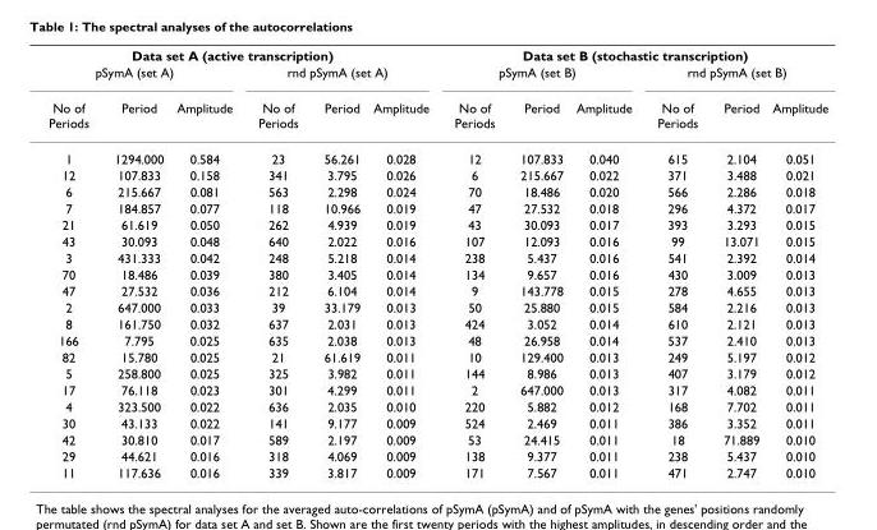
<table><thead><tr><td colspan="6">Data set A (active transcription)</td><td colspan="6">Data set B (stochastic transcription)</td></tr><tr><td colspan="3">pSymA (set A)</td><td colspan="3">rnd pSymA (set A)</td><td colspan="3">pSymA (set B)</td><td colspan="3">rnd pSymA (set B)</td></tr><tr><td>No of Periods</td><td>Period</td><td>Amplitude</td><td>No of Periods</td><td>Period</td><td>Amplitude</td><td>No of Periods</td><td>Period</td><td>Amplitude</td><td>No of Periods</td><td>Period</td><td>Amplitude</td></tr></thead><tbody><tr><td>1</td><td>1294.000</td><td>0.584</td><td>23</td><td>56.261</td><td>0.028</td><td>12</td><td>107.833</td><td>0.040</td><td>615</td><td>2.104</td><td>0.051</td></tr><tr><td>12</td><td>107.833</td><td>0.158</td><td>341</td><td>3.795</td><td>0.026</td><td>6</td><td>215.667</td><td>0.022</td><td>371</td><td>3.488</td><td>0.021</td></tr><tr><td>6</td><td>215.667</td><td>0.081</td><td>563</td><td>2.298</td><td>0.024</td><td>70</td><td>18.486</td><td>0.020</td><td>566</td><td>2.286</td><td>0.018</td></tr><tr><td>7</td><td>184.857</td><td>0.077</td><td>118</td><td>10.966</td><td>0.019</td><td>47</td><td>27.532</td><td>0.018</td><td>296</td><td>4.372</td><td>0.017</td></tr><tr><td>21</td><td>61.619</td><td>0.050</td><td>262</td><td>4.939</td><td>0.019</td><td>43</td><td>30.093</td><td>0.017</td><td>393</td><td>3.293</td><td>0.015</td></tr><tr><td>43</td><td>30.093</td><td>0.048</td><td>640</td><td>2.022</td><td>0.016</td><td>107</td><td>12.093</td><td>0.016</td><td>99</td><td>13.071</td><td>0.015</td></tr><tr><td>3</td><td>431.333</td><td>0.042</td><td>248</td><td>5.218</td><td>0.014</td><td>238</td><td>5.437</td><td>0.016</td><td>541</td><td>2.392</td><td>0.014</td></tr><tr><td>70</td><td>18.486</td><td>0.039</td><td>380</td><td>3.405</td><td>0.014</td><td>134</td><td>9.657</td><td>0.016</td><td>430</td><td>3.009</td><td>0.013</td></tr><tr><td>47</td><td>27.532</td><td>0.036</td><td>212</td><td>6.104</td><td>0.014</td><td>9</td><td>143.778</td><td>0.015</td><td>278</td><td>4.655</td><td>0.013</td></tr><tr><td>2</td><td>647.000</td><td>0.033</td><td>39</td><td>33.179</td><td>0.013</td><td>50</td><td>25.880</td><td>0.015</td><td>584</td><td>2.216</td><td>0.013</td></tr><tr><td>8</td><td>161.750</td><td>0.032</td><td>637</td><td>2.031</td><td>0.013</td><td>424</td><td>3.052</td><td>0.014</td><td>610</td><td>2.121</td><td>0.013</td></tr><tr><td>166</td><td>7.795</td><td>0.025</td><td>635</td><td>2.038</td><td>0.013</td><td>48</td><td>26.958</td><td>0.014</td><td>537</td><td>2.410</td><td>0.013</td></tr><tr><td>82</td><td>15.780</td><td>0.025</td><td>21</td><td>61.619</td><td>0.011</td><td>10</td><td>129.400</td><td>0.013</td><td>249</td><td>5.197</td><td>0.012</td></tr><tr><td>5</td><td>258.800</td><td>0.025</td><td>325</td><td>3.982</td><td>0.011</td><td>144</td><td>8.986</td><td>0.013</td><td>407</td><td>3.179</td><td>0.012</td></tr><tr><td>17</td><td>76.118</td><td>0.023</td><td>301</td><td>4.299</td><td>0.011</td><td>2</td><td>647.000</td><td>0.013</td><td>317</td><td>4.082</td><td>0.011</td></tr><tr><td>4</td><td>323.500</td><td>0.022</td><td>636</td><td>2.035</td><td>0.010</td><td>220</td><td>5.882</td><td>0.012</td><td>168</td><td>7.702</td><td>0.011</td></tr><tr><td>30</td><td>43.133</td><td>0.022</td><td>141</td><td>9.177</td><td>0.009</td><td>524</td><td>2.469</td><td>0.011</td><td>386</td><td>3.352</td><td>0.011</td></tr><tr><td>42</td><td>30.810</td><td>0.017</td><td>589</td><td>2.197</td><td>0.009</td><td>53</td><td>24.415</td><td>0.011</td><td>18</td><td>71.889</td><td>0.010</td></tr><tr><td>29</td><td>44.621</td><td>0.016</td><td>318</td><td>4.069</td><td>0.009</td><td>138</td><td>9.377</td><td>0.011</td><td>238</td><td>5.437</td><td>0.010</td></tr><tr><td>11</td><td>117.636</td><td>0.016</td><td>339</td><td>3.817</td><td>0.009</td><td>171</td><td>7.567</td><td>0.011</td><td>471</td><td>2.747</td><td>0.010</td></tr></tbody></table>